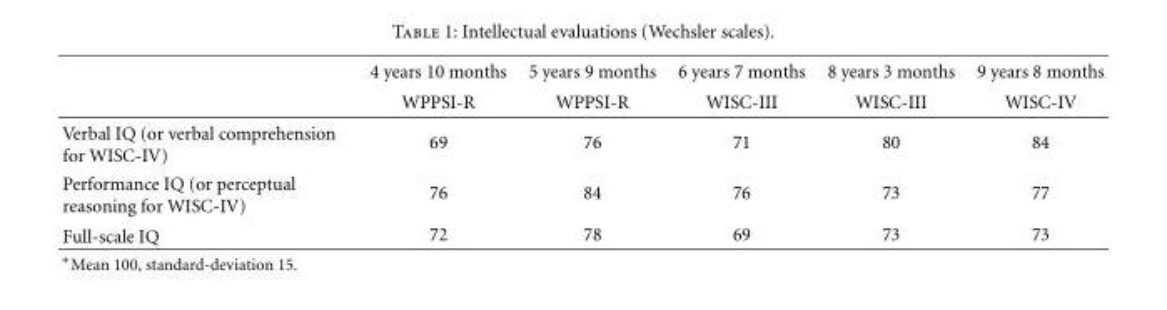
<table><thead><tr><td rowspan="2"></td><td rowspan="2">4 years 10 months WPPSI-R</td><td rowspan="2">5 years 9 months WPPSI-R</td><td rowspan="2">6 years 7 months WISC-III</td><td rowspan="2">8 years 3 months WISC-III</td><td rowspan="2">9 years 8 months WISC-IV</td></tr><tr></tr></thead><tbody><tr><td>Verbal IQ (or verbal comprehension for WISC-IV)</td><td>69</td><td>76</td><td>71</td><td>80</td><td>84</td></tr><tr><td>Performance IQ (or perceptual reasoning for WISC-IV)</td><td>76</td><td>84</td><td>76</td><td>73</td><td>77</td></tr><tr><td>Full-scale IQ</td><td>72</td><td>78</td><td>69</td><td>73</td><td>73</td></tr></tbody></table>